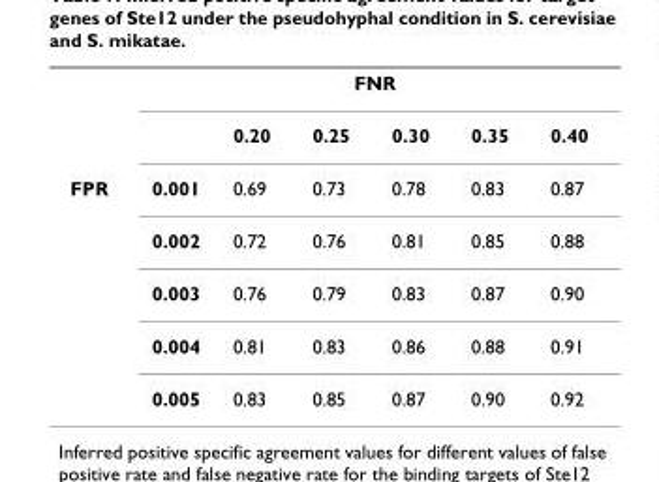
<table><thead><tr><td rowspan="2"></td><td colspan="6">FNR</td></tr><tr><td></td><td>0.20</td><td>0.25</td><td>0.30</td><td>0.35</td><td>0.40</td></tr></thead><tbody><tr><td rowspan="5">FPR</td><td>0.001</td><td>0.69</td><td>0.73</td><td>0.78</td><td>0.83</td><td>0.87</td></tr><tr><td>0.002</td><td>0.72</td><td>0.76</td><td>0.81</td><td>0.85</td><td>0.88</td></tr><tr><td>0.003</td><td>0.76</td><td>0.79</td><td>0.83</td><td>0.87</td><td>0.90</td></tr><tr><td>0.004</td><td>0.81</td><td>0.83</td><td>0.86</td><td>0.88</td><td>0.91</td></tr><tr><td>0.005</td><td>0.83</td><td>0.85</td><td>0.87</td><td>0.90</td><td>0.92</td></tr></tbody></table>